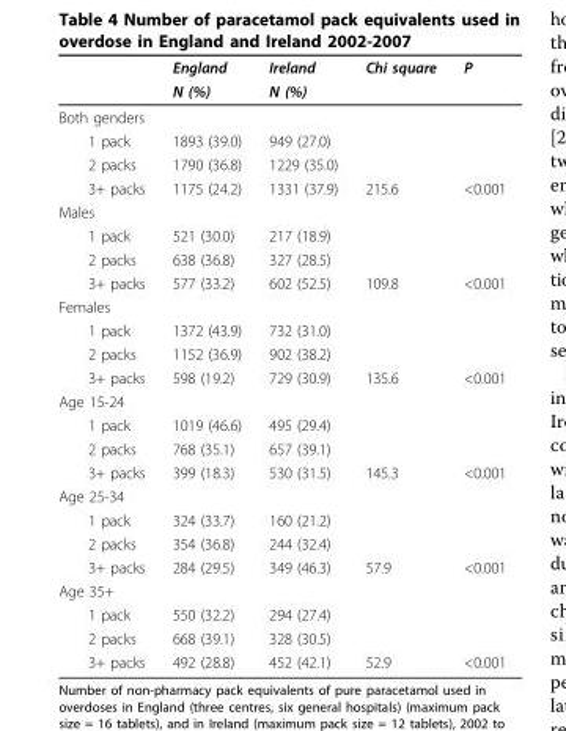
<table><thead><tr><td rowspan="2"></td><td rowspan="2">England N (%)</td><td rowspan="2">Ireland N (%)</td><td rowspan="2">Chi square</td><td rowspan="2">P</td></tr><tr></tr></thead><tbody><tr><td colspan="5">Both genders</td></tr><tr><td>1 pack</td><td>1893 (39.0)</td><td>949 (27.0)</td><td></td><td></td></tr><tr><td>2 packs</td><td>1790 (36.8)</td><td>1229 (35.0)</td><td></td><td></td></tr><tr><td>3+ packs</td><td>1175 (24.2)</td><td>1331 (37.9)</td><td>215.6</td><td>&lt;0.001</td></tr><tr><td colspan="5">Males</td></tr><tr><td>1 pack</td><td>521 (30.0)</td><td>217 (18.9)</td><td></td><td></td></tr><tr><td>2 packs</td><td>638 (36.8)</td><td>327 (28.5)</td><td></td><td></td></tr><tr><td>3+ packs</td><td>577 (33.2)</td><td>602 (52.5)</td><td>109.8</td><td>&lt;0.001</td></tr><tr><td colspan="5">Females</td></tr><tr><td>1 pack</td><td>1372 (43.9)</td><td>732 (31.0)</td><td></td><td></td></tr><tr><td>2 packs</td><td>1152 (36.9)</td><td>902 (38.2)</td><td></td><td></td></tr><tr><td>3+ packs</td><td>598 (19.2)</td><td>729 (30.9)</td><td>135.6</td><td>&lt;0.001</td></tr><tr><td colspan="5">Age 15-24</td></tr><tr><td>1 pack</td><td>1019 (46.6)</td><td>495 (29.4)</td><td></td><td></td></tr><tr><td>2 packs</td><td>768 (35.1)</td><td>657 (39.1)</td><td></td><td></td></tr><tr><td>3+ packs</td><td>399 (18.3)</td><td>530 (31.5)</td><td>145.3</td><td>&lt;0.001</td></tr><tr><td colspan="5">Age 25-34</td></tr><tr><td>1 pack</td><td>324 (33.7)</td><td>160 (21.2)</td><td></td><td></td></tr><tr><td>2 packs</td><td>354 (36.8)</td><td>244 (32.4)</td><td></td><td></td></tr><tr><td>3+ packs</td><td>284 (29.5)</td><td>349 (46.3)</td><td>57.9</td><td>&lt;0.001</td></tr><tr><td colspan="5">Age 35+</td></tr><tr><td>1 pack</td><td>550 (32.2)</td><td>294 (27.4)</td><td></td><td></td></tr><tr><td>2 packs</td><td>668 (39.1)</td><td>328 (30.5)</td><td></td><td></td></tr><tr><td>3+ packs</td><td>492 (28.8)</td><td>452 (42.1)</td><td>52.9</td><td>&lt;0.001</td></tr></tbody></table>